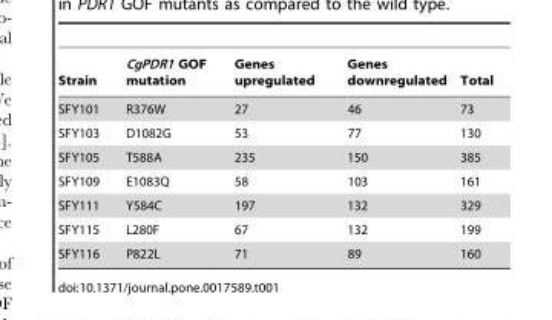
<table><thead><tr><td>Strain</td><td>CgPDR1 GOF mutation</td><td>Genes upregulated</td><td>Genes downregulated</td><td>Total</td></tr></thead><tbody><tr><td>SFY101</td><td>R376W</td><td>27</td><td>46</td><td>73</td></tr><tr><td>SFY103</td><td>D1082G</td><td>53</td><td>77</td><td>130</td></tr><tr><td>SFY105</td><td>T588A</td><td>235</td><td>150</td><td>385</td></tr><tr><td>SFY109</td><td>E1083Q</td><td>58</td><td>103</td><td>161</td></tr><tr><td>SFY111</td><td>Y584C</td><td>197</td><td>132</td><td>329</td></tr><tr><td>SFY115</td><td>L280F</td><td>67</td><td>132</td><td>199</td></tr><tr><td>SFY116</td><td>P822L</td><td>71</td><td>89</td><td>160</td></tr></tbody></table>